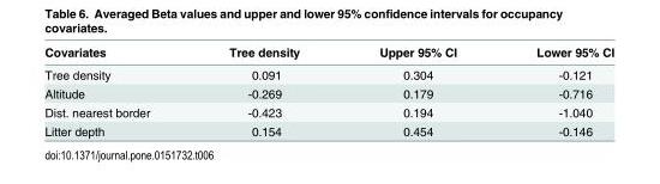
<table><thead><tr><td>Covariates</td><td>Tree density</td><td>Upper 95% CI</td><td>Lower 95% CI</td></tr></thead><tbody><tr><td>Tree density</td><td>0.091</td><td>0.304</td><td>-0.121</td></tr><tr><td>Altitude</td><td>-0.269</td><td>0.179</td><td>-0.716</td></tr><tr><td>Dist. nearest border</td><td>-0.423</td><td>0.194</td><td>-1.040</td></tr><tr><td>Litter depth</td><td>0.154</td><td>0.454</td><td>-0.146</td></tr></tbody></table>